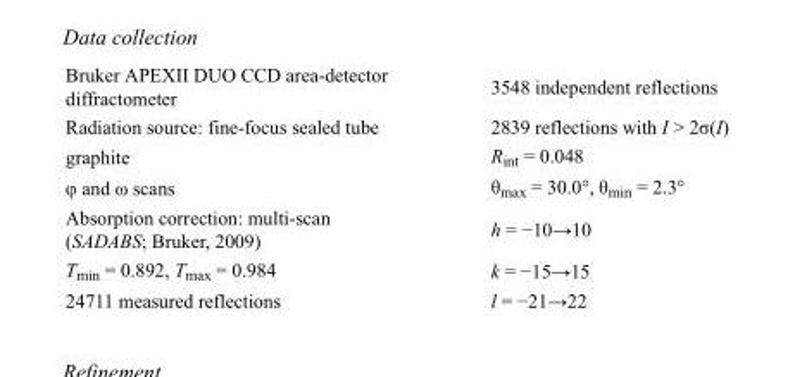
<table><tbody><tr><td>Bruker APEXII DUO CCD area-detector diffractometer</td><td>3548 independent reflections</td></tr><tr><td>Radiation source: fine-focus sealed tube</td><td>2839 reflections with I &gt; 2σ(I)</td></tr><tr><td>graphite</td><td>R<sub>int</sub> = 0.048</td></tr><tr><td>φ and ω scans</td><td>θ<sub>max</sub> = 30.0°, θ<sub>min</sub> = 2.3°</td></tr><tr><td>Absorption correction: multi-scan (SADABS; Bruker, 2009)</td><td>h = −10→10</td></tr><tr><td>T<sub>min</sub> = 0.892, T<sub>max</sub> = 0.984</td><td>k = −15→15</td></tr><tr><td>24711 measured reflections</td><td>l = −21→22</td></tr></tbody></table>